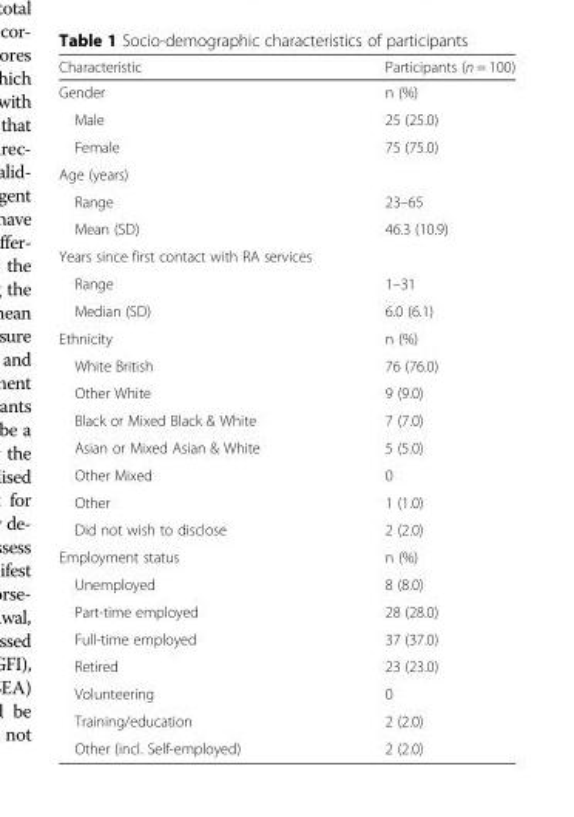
<table><thead><tr><td>Characteristic</td><td>Participants (n = 100)</td></tr></thead><tbody><tr><td>Gender</td><td>n (%)</td></tr><tr><td>Male</td><td>25 (25.0)</td></tr><tr><td>Female</td><td>75 (75.0)</td></tr><tr><td colspan="2">Age (years)</td></tr><tr><td>Range</td><td>23–65</td></tr><tr><td>Mean (SD)</td><td>46.3 (10.9)</td></tr><tr><td colspan="2">Years since first contact with RA services</td></tr><tr><td>Range</td><td>1–31</td></tr><tr><td>Median (SD)</td><td>6.0 (6.1)</td></tr><tr><td>Ethnicity</td><td>n (%)</td></tr><tr><td>White British</td><td>76 (76.0)</td></tr><tr><td>Other White</td><td>9 (9.0)</td></tr><tr><td>Black or Mixed Black &amp; White</td><td>7 (7.0)</td></tr><tr><td>Asian or Mixed Asian &amp; White</td><td>5 (5.0)</td></tr><tr><td>Other Mixed</td><td>0</td></tr><tr><td>Other</td><td>1 (1.0)</td></tr><tr><td>Did not wish to disclose</td><td>2 (2.0)</td></tr><tr><td>Employment status</td><td>n (%)</td></tr><tr><td>Unemployed</td><td>8 (8.0)</td></tr><tr><td>Part-time employed</td><td>28 (28.0)</td></tr><tr><td>Full-time employed</td><td>37 (37.0)</td></tr><tr><td>Retired</td><td>23 (23.0)</td></tr><tr><td>Volunteering</td><td>0</td></tr><tr><td>Training/education</td><td>2 (2.0)</td></tr><tr><td>Other (incl. Self-employed)</td><td>2 (2.0)</td></tr></tbody></table>